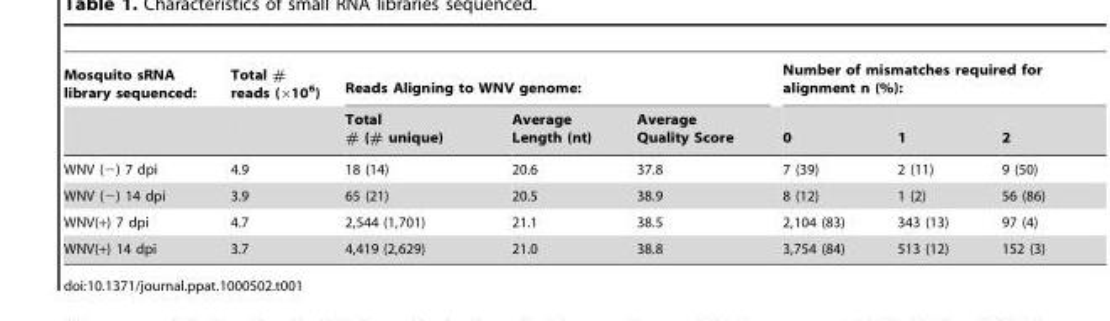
<table><thead><tr><td rowspan="2">Mosquito sRNA library sequenced:</td><td rowspan="2">Total # reads (×10<sup>6</sup>)</td><td colspan="3">Reads Aligning to WNV genome:</td><td colspan="3">Number of mismatches required for alignment n (%):</td></tr><tr><td>Total # (# unique)</td><td>Average Length (nt)</td><td>Average Quality Score</td><td>0</td><td>1</td><td>2</td></tr></thead><tbody><tr><td>WNV (−) 7 dpi</td><td>4.9</td><td>18 (14)</td><td>20.6</td><td>37.8</td><td>7 (39)</td><td>2 (11)</td><td>9 (50)</td></tr><tr><td>WNV (−) 14 dpi</td><td>3.9</td><td>65 (21)</td><td>20.5</td><td>38.9</td><td>8 (12)</td><td>1 (2)</td><td>56 (86)</td></tr><tr><td>WNV(+) 7 dpi</td><td>4.7</td><td>2,544 (1,701)</td><td>21.1</td><td>38.5</td><td>2,104 (83)</td><td>343 (13)</td><td>97 (4)</td></tr><tr><td>WNV(+) 14 dpi</td><td>3.7</td><td>4,419 (2,629)</td><td>21.0</td><td>38.8</td><td>3,754 (84)</td><td>513 (12)</td><td>152 (3)</td></tr></tbody></table>